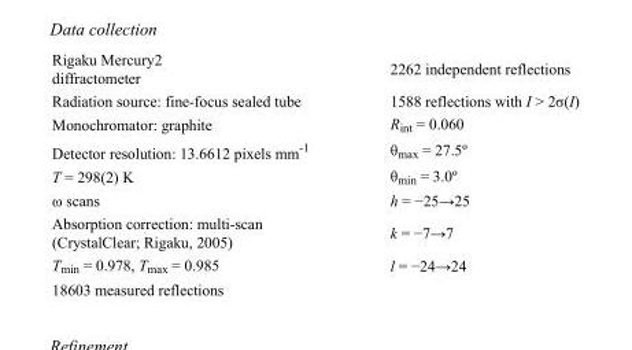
<table><tbody><tr><td>Rigaku Mercury2 diffractometer</td><td>2262 independent reflections</td></tr><tr><td>Radiation source: fine-focus sealed tube</td><td>1588 reflections with I &gt; 2σ(I)</td></tr><tr><td>Monochromator: graphite</td><td>R<sub>int</sub> = 0.060</td></tr><tr><td>Detector resolution: 13.6612 pixels mm<sup>-1</sup></td><td>θ<sub>max</sub> = 27.5º</td></tr><tr><td>T = 298(2) K</td><td>θ<sub>min</sub> = 3.0º</td></tr><tr><td>ω scans</td><td>h = −25→25</td></tr><tr><td>Absorption correction: multi-scan (CrystalClear; Rigaku, 2005)</td><td>k = −7→7</td></tr><tr><td>T<sub>min</sub> = 0.978, T<sub>max</sub> = 0.985</td><td>l = −24→24</td></tr><tr><td>18603 measured reflections</td><td></td></tr></tbody></table>